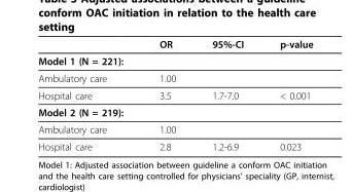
<table><thead><tr><td></td><td>OR</td><td>95%-CI</td><td>p-value</td></tr></thead><tbody><tr><td colspan="4">Model 1 (N = 221):</td></tr><tr><td>Ambulatory care</td><td>1.00</td><td></td><td></td></tr><tr><td>Hospital care</td><td>3.5</td><td>1.7-7.0</td><td>&lt; 0.001</td></tr><tr><td colspan="4">Model 2 (N = 219):</td></tr><tr><td>Ambulatory care</td><td>1.00</td><td></td><td></td></tr><tr><td>Hospital care</td><td>2.8</td><td>1.2-6.9</td><td>0.023</td></tr></tbody></table>